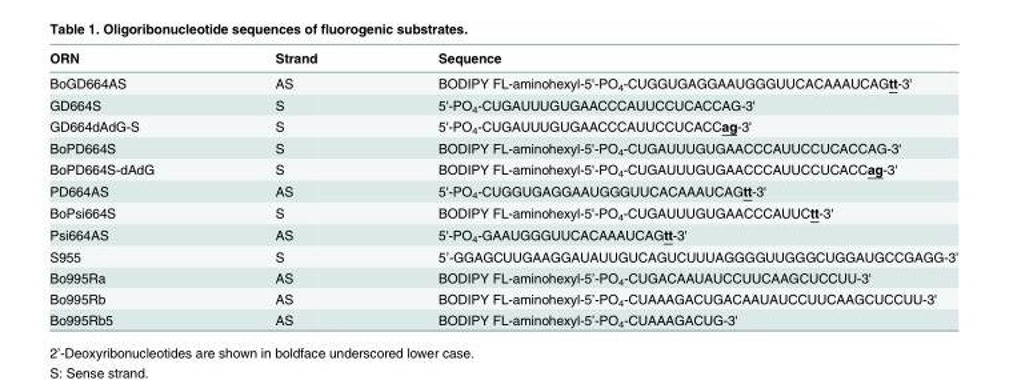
<table><thead><tr><td>ORN</td><td>Strand</td><td>Sequence</td></tr></thead><tbody><tr><td>BoGD664AS</td><td>AS</td><td>BODIPY FL-aminohexyl-5&#x27;-PO<sub>4</sub>-CUGGUGAGGAAUGGGUUCACAAAUCAGtt-3&#x27;</td></tr><tr><td>GD664S</td><td>S</td><td>5&#x27;-PO<sub>4</sub>-CUGAUUUGUGAACCCAUUCCUCACCAG-3&#x27;</td></tr><tr><td>GD664dAdG-S</td><td>S</td><td>5&#x27;-PO<sub>4</sub>-CUGAUUUGUGAACCCAUUCCUCACCag-3&#x27;</td></tr><tr><td>BoPD664S</td><td>S</td><td>BODIPY FL-aminohexyl-5&#x27;-PO<sub>4</sub>-CUGAUUUGUGAACCCAUUCCUCACCAG-3&#x27;</td></tr><tr><td>BoPD664S-dAdG</td><td>S</td><td>BODIPY FL-aminohexyl-5&#x27;-PO<sub>4</sub>-CUGAUUUGUGAACCCAUUCCUCACCag-3&#x27;</td></tr><tr><td>PD664AS</td><td>AS</td><td>5&#x27;-PO<sub>4</sub>-CUGGUGAGGAAUGGGUUCACAAAUCAGtt-3&#x27;</td></tr><tr><td>BoPsi664S</td><td>S</td><td>BODIPY FL-aminohexyl-5&#x27;-PO<sub>4</sub>-CUGAUUUGUGAACCCAUUCtt-3&#x27;</td></tr><tr><td>Psi664AS</td><td>AS</td><td>5&#x27;-PO<sub>4</sub>-GAAUGGGUUCACAAAUCAGtt-3&#x27;</td></tr><tr><td>S955</td><td>S</td><td>5’-GGAGCUUGAAGGAUAUUGUCAGUCUUUAGGGGUUGGGCUGGAUGCCGAGG-3’</td></tr><tr><td>Bo995Ra</td><td>AS</td><td>BODIPY FL-aminohexyl-5’-PO<sub>4</sub>-CUGACAAUAUCCUUCAAGCUCCUU-3&#x27;</td></tr><tr><td>Bo995Rb</td><td>AS</td><td>BODIPY FL-aminohexyl-5’-PO<sub>4</sub>-CUAAAGACUGACAAUAUCCUUCAAGCUCCUU-3&#x27;</td></tr><tr><td>Bo995Rb5</td><td>AS</td><td>BODIPY FL-aminohexyl-5’-PO<sub>4</sub>-CUAAAGACUG-3&#x27;</td></tr></tbody></table>